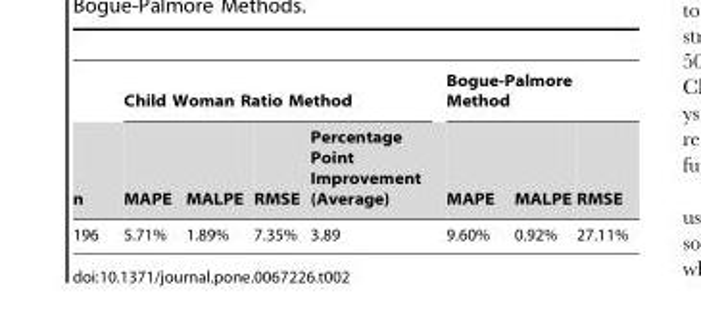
<table><thead><tr><td rowspan="2">n</td><td colspan="4">Child Woman Ratio Method</td><td colspan="3">Bogue-Palmore Method</td></tr><tr><td>MAPE</td><td>MALPE</td><td>RMSE</td><td>Percentage Point Improvement (Average)</td><td>MAPE</td><td>MALPE</td><td>RMSE</td></tr></thead><tbody><tr><td>196</td><td>5.71%</td><td>1.89%</td><td>7.35%</td><td>3.89</td><td>9.60%</td><td>0.92%</td><td>27.11%</td></tr></tbody></table>